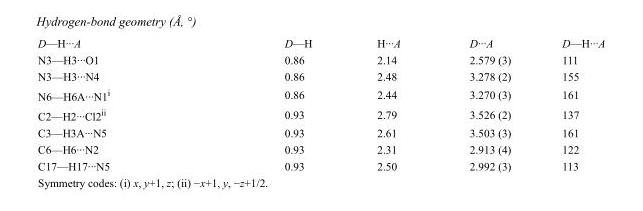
<table><tbody><tr><td>D—H···A</td><td>D—H</td><td>H···A</td><td>D···A</td><td>D—H···A</td></tr><tr><td>N3—H3···O1</td><td>0.86</td><td>2.14</td><td>2.579 (3)</td><td>111</td></tr><tr><td>N3—H3···N4</td><td>0.86</td><td>2.48</td><td>3.278 (2)</td><td>155</td></tr><tr><td>N6—H6A···N1<sup>i</sup></td><td>0.86</td><td>2.44</td><td>3.270 (3)</td><td>161</td></tr><tr><td>C2—H2···Cl2<sup>ii</sup></td><td>0.93</td><td>2.79</td><td>3.526 (2)</td><td>137</td></tr><tr><td>C3—H3A···N5</td><td>0.93</td><td>2.61</td><td>3.503 (3)</td><td>161</td></tr><tr><td>C6—H6···N2</td><td>0.93</td><td>2.31</td><td>2.913 (4)</td><td>122</td></tr><tr><td>C17—H17···N5</td><td>0.93</td><td>2.50</td><td>2.992 (3)</td><td>113</td></tr></tbody></table>